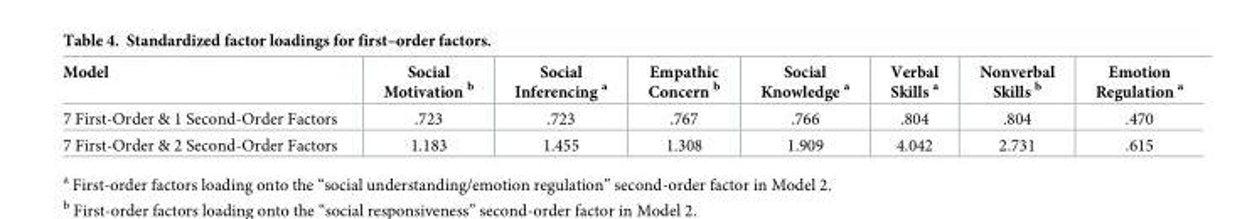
<table><thead><tr><td>Model</td><td>Social Motivation <sup>b</sup></td><td>Social Inferencing <sup>a</sup></td><td>Empathic Concern <sup>b</sup></td><td>Social Knowledge <sup>a</sup></td><td>Verbal Skills <sup>a</sup></td><td>Nonverbal Skills <sup>b</sup></td><td>Emotion Regulation <sup>a</sup></td></tr></thead><tbody><tr><td>7 First-Order &amp; 1 Second-Order Factors</td><td>.723</td><td>.723</td><td>.767</td><td>.766</td><td>.804</td><td>.804</td><td>.470</td></tr><tr><td>7 First-Order &amp; 2 Second-Order Factors</td><td>1.183</td><td>1.455</td><td>1.308</td><td>1.909</td><td>4.042</td><td>2.731</td><td>.615</td></tr></tbody></table>